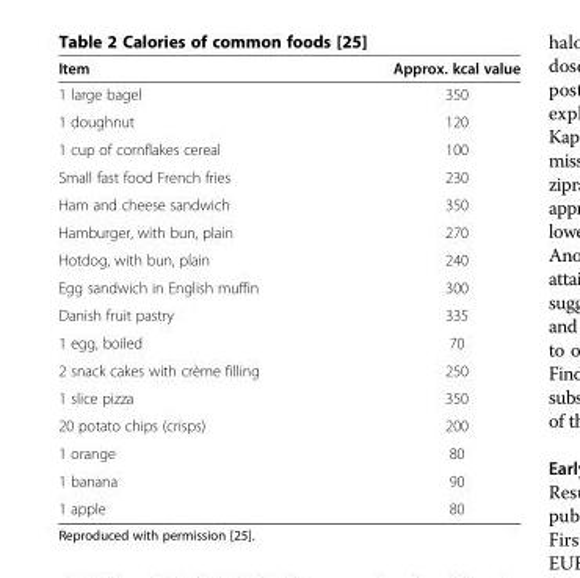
<table><thead><tr><td>Item</td><td>Approx. kcal value</td></tr></thead><tbody><tr><td>1 large bagel</td><td>350</td></tr><tr><td>1 doughnut</td><td>120</td></tr><tr><td>1 cup of cornflakes cereal</td><td>100</td></tr><tr><td>Small fast food French fries</td><td>230</td></tr><tr><td>Ham and cheese sandwich</td><td>350</td></tr><tr><td>Hamburger, with bun, plain</td><td>270</td></tr><tr><td>Hotdog, with bun, plain</td><td>240</td></tr><tr><td>Egg sandwich in English muffin</td><td>300</td></tr><tr><td>Danish fruit pastry</td><td>335</td></tr><tr><td>1 egg, boiled</td><td>70</td></tr><tr><td>2 snack cakes with crème filling</td><td>250</td></tr><tr><td>1 slice pizza</td><td>350</td></tr><tr><td>20 potato chips (crisps)</td><td>200</td></tr><tr><td>1 orange</td><td>80</td></tr><tr><td>1 banana</td><td>90</td></tr><tr><td>1 apple</td><td>80</td></tr></tbody></table>